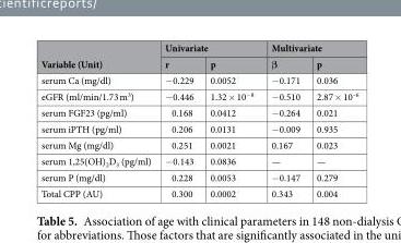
<table><thead><tr><td rowspan="2">Variable (Unit)</td><td colspan="2">Univariate</td><td colspan="2">Multivariate</td></tr><tr><td>r</td><td>p</td><td>β</td><td>p</td></tr></thead><tbody><tr><td>serum Ca (mg/dl)</td><td>−0.229</td><td>0.0052</td><td>−0.171</td><td>0.036</td></tr><tr><td>eGFR (ml/min/1.73 m<sup>3</sup>)</td><td>−0.446</td><td>1.32 × 10<sup>−8</sup></td><td>−0.510</td><td>2.87 × 10<sup>–6</sup></td></tr><tr><td>serum FGF23 (pg/ml)</td><td>0.168</td><td>0.0412</td><td>−0.264</td><td>0.021</td></tr><tr><td>serum iPTH (pg/ml)</td><td>0.206</td><td>0.0131</td><td>−0.009</td><td>0.935</td></tr><tr><td>serum Mg (mg/dl)</td><td>0.251</td><td>0.0021</td><td>0.167</td><td>0.023</td></tr><tr><td>serum 1,25(OH)<sub>2</sub>D<sub>3</sub> (pg/ml)</td><td>−0.143</td><td>0.0836</td><td>—</td><td>—</td></tr><tr><td>serum P (mg/dl)</td><td>0.228</td><td>0.0053</td><td>−0.147</td><td>0.279</td></tr><tr><td>Total CPP (AU)</td><td>0.300</td><td>0.0002</td><td>0.343</td><td>0.004</td></tr></tbody></table>